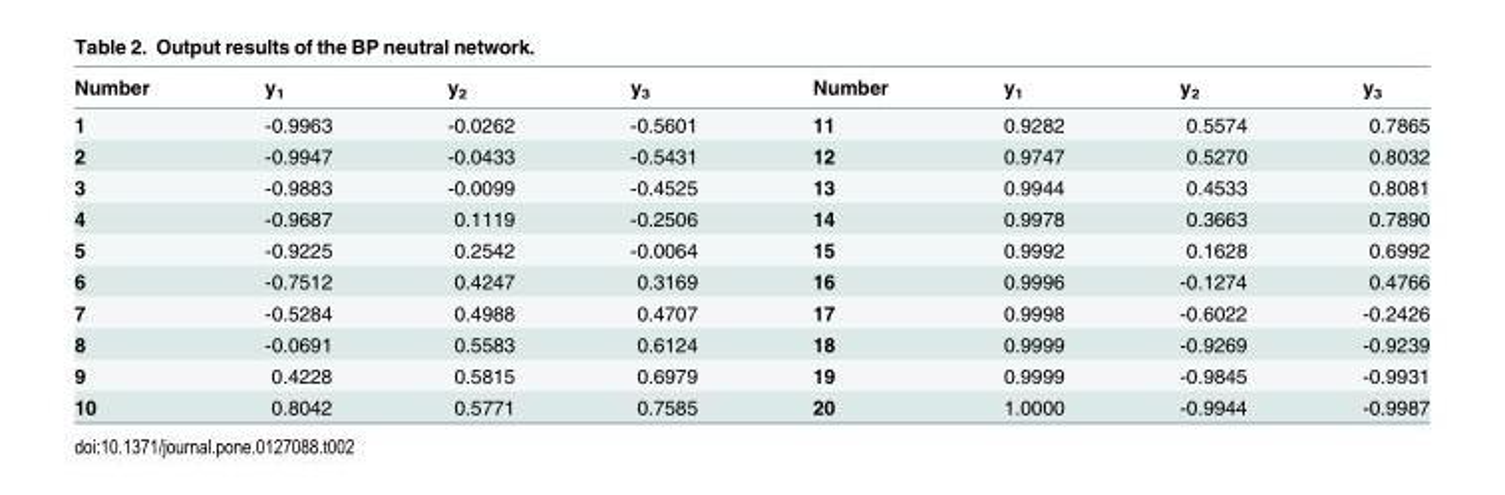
<table><thead><tr><td>Number</td><td>y<sub>1</sub></td><td>y<sub>2</sub></td><td>y<sub>3</sub></td><td>Number</td><td>y<sub>1</sub></td><td>y<sub>2</sub></td><td>y<sub>3</sub></td></tr></thead><tbody><tr><td>1</td><td>-0.9963</td><td>-0.0262</td><td>-0.5601</td><td>11</td><td>0.9282</td><td>0.5574</td><td>0.7865</td></tr><tr><td>2</td><td>-0.9947</td><td>-0.0433</td><td>-0.5431</td><td>12</td><td>0.9747</td><td>0.5270</td><td>0.8032</td></tr><tr><td>3</td><td>-0.9883</td><td>-0.0099</td><td>-0.4525</td><td>13</td><td>0.9944</td><td>0.4533</td><td>0.8081</td></tr><tr><td>4</td><td>-0.9687</td><td>0.1119</td><td>-0.2506</td><td>14</td><td>0.9978</td><td>0.3663</td><td>0.7890</td></tr><tr><td>5</td><td>-0.9225</td><td>0.2542</td><td>-0.0064</td><td>15</td><td>0.9992</td><td>0.1628</td><td>0.6992</td></tr><tr><td>6</td><td>-0.7512</td><td>0.4247</td><td>0.3169</td><td>16</td><td>0.9996</td><td>-0.1274</td><td>0.4766</td></tr><tr><td>7</td><td>-0.5284</td><td>0.4988</td><td>0.4707</td><td>17</td><td>0.9998</td><td>-0.6022</td><td>-0.2426</td></tr><tr><td>8</td><td>-0.0691</td><td>0.5583</td><td>0.6124</td><td>18</td><td>0.9999</td><td>-0.9269</td><td>-0.9239</td></tr><tr><td>9</td><td>0.4228</td><td>0.5815</td><td>0.6979</td><td>19</td><td>0.9999</td><td>-0.9845</td><td>-0.9931</td></tr><tr><td>10</td><td>0.8042</td><td>0.5771</td><td>0.7585</td><td>20</td><td>1.0000</td><td>-0.9944</td><td>-0.9987</td></tr></tbody></table>